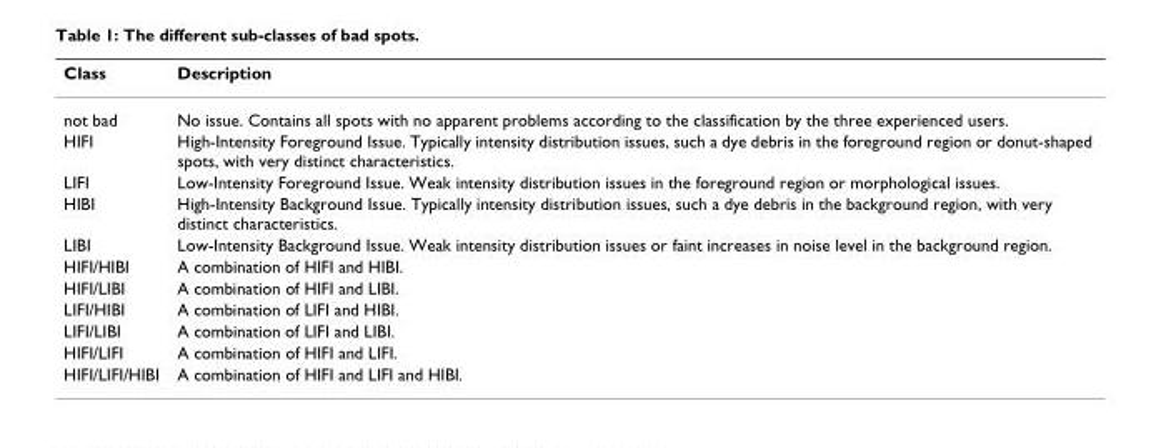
<table><thead><tr><td>Class</td><td>Description</td></tr></thead><tbody><tr><td>not bad</td><td>No issue. Contains all spots with no apparent problems according to the classification by the three experienced users.</td></tr><tr><td>HIFI</td><td>High-Intensity Foreground Issue. Typically intensity distribution issues, such a dye debris in the foreground region or donut-shaped spots, with very distinct characteristics.</td></tr><tr><td>LIFI</td><td>Low-Intensity Foreground Issue. Weak intensity distribution issues in the foreground region or morphological issues.</td></tr><tr><td>HIBI</td><td>High-Intensity Background Issue. Typically intensity distribution issues, such a dye debris in the background region, with very distinct characteristics.</td></tr><tr><td>LIBI</td><td>Low-Intensity Background Issue. Weak intensity distribution issues or faint increases in noise level in the background region.</td></tr><tr><td>HIFI/HIBI</td><td>A combination of HIFI and HIBI.</td></tr><tr><td>HIFI/LIBI</td><td>A combination of HIFI and LIBI.</td></tr><tr><td>LIFI/HIBI</td><td>A combination of LIFI and HIBI.</td></tr><tr><td>LIFI/LIBI</td><td>A combination of LIFI and LIBI.</td></tr><tr><td>HIFI/LIFI</td><td>A combination of HIFI and LIFI.</td></tr><tr><td>HIFI/LIFI/HIBI</td><td>A combination of HIFI and LIFI and HIBI.</td></tr></tbody></table>